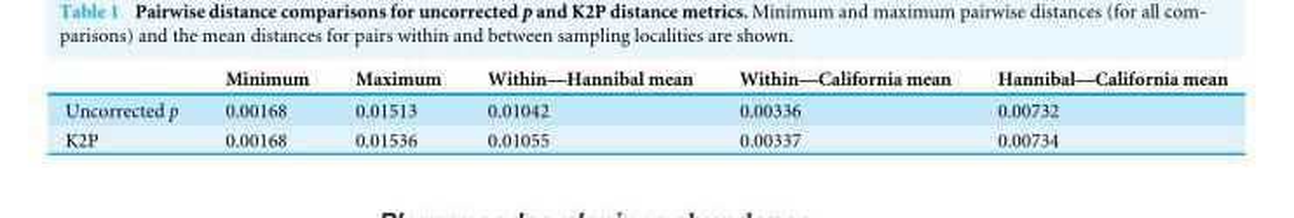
<table><thead><tr><td></td><td>Minimum</td><td>Maximum</td><td>Within—Hannibal mean</td><td>Within—California mean</td><td>Hannibal—California mean</td></tr></thead><tbody><tr><td>Uncorrected p</td><td>0.00168</td><td>0.01513</td><td>0.01042</td><td>0.00336</td><td>0.00732</td></tr><tr><td>K2P</td><td>0.00168</td><td>0.01536</td><td>0.01055</td><td>0.00337</td><td>0.00734</td></tr></tbody></table>